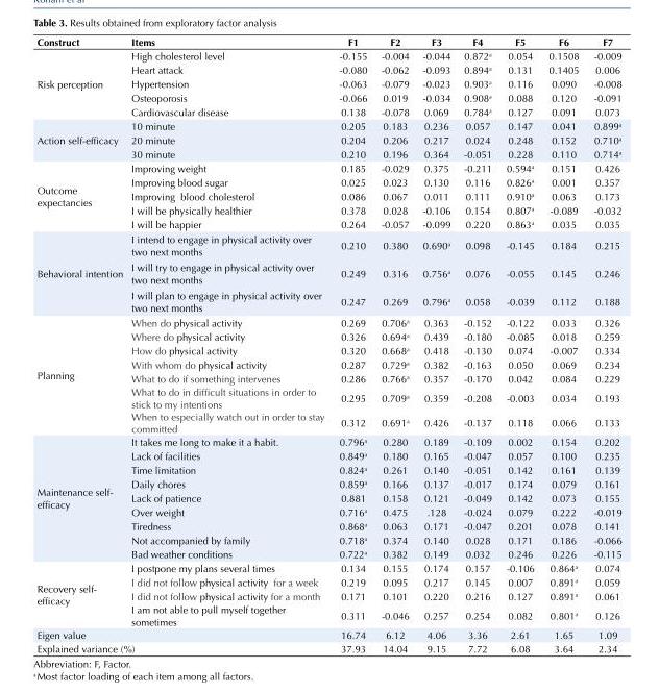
<table><tbody><tr><td>Construct</td><td>Items</td><td>F1</td><td>F2</td><td>F3</td><td>F4</td><td>F5</td><td>F6</td><td>F7</td></tr><tr><td rowspan="5">Risk perception</td><td>High cholesterol level</td><td>-0.155</td><td>-0.004</td><td>-0.044</td><td>0.872<sup>a</sup></td><td>0.054</td><td>0.1508</td><td>-0.009</td></tr><tr><td>Heart attack</td><td>-0.080</td><td>-0.062</td><td>-0.093</td><td>0.894<sup>a</sup></td><td>0.131</td><td>0.1405</td><td>0.006</td></tr><tr><td>Hypertension</td><td>-0.063</td><td>-0.079</td><td>-0.023</td><td>0.903<sup>a</sup></td><td>0.116</td><td>0.090</td><td>-0.008</td></tr><tr><td>Osteoporosis</td><td>-0.066</td><td>0.019</td><td>-0.034</td><td>0.908<sup>a</sup></td><td>0.088</td><td>0.120</td><td>-0.091</td></tr><tr><td>Cardiovascular disease</td><td>0.138</td><td>-0.078</td><td>0.069</td><td>0.784<sup>a</sup></td><td>0.127</td><td>0.091</td><td>0.073</td></tr><tr><td rowspan="3">Action self-efficacy</td><td>10 minute</td><td>0.205</td><td>0.183</td><td>0.236</td><td>0.057</td><td>0.147</td><td>0.041</td><td>0.899<sup>a</sup></td></tr><tr><td>20 minute</td><td>0.204</td><td>0.206</td><td>0.217</td><td>0.024</td><td>0.248</td><td>0.152</td><td>0.710<sup>a</sup></td></tr><tr><td>30 minute</td><td>0.210</td><td>0.196</td><td>0.364</td><td>-0.051</td><td>0.228</td><td>0.110</td><td>0.714<sup>a</sup></td></tr><tr><td rowspan="5">Outcome expectancies</td><td>Improving weight</td><td>0.185</td><td>-0.029</td><td>0.375</td><td>-0.211</td><td>0.594<sup>a</sup></td><td>0.151</td><td>0.426</td></tr><tr><td>Improving blood sugar</td><td>0.025</td><td>0.023</td><td>0.130</td><td>0.116</td><td>0.826<sup>a</sup></td><td>0.001</td><td>0.357</td></tr><tr><td>Improving blood cholesterol</td><td>0.086</td><td>0.067</td><td>0.011</td><td>0.111</td><td>0.910<sup>a</sup></td><td>0.063</td><td>0.173</td></tr><tr><td>I will be physically healthier</td><td>0.378</td><td>0.028</td><td>-0.106</td><td>0.154</td><td>0.807<sup>a</sup></td><td>-0.089</td><td>-0.032</td></tr><tr><td>I will be happier</td><td>0.264</td><td>-0.057</td><td>-0.099</td><td>0.220</td><td>0.863<sup>a</sup></td><td>0.035</td><td>0.035</td></tr><tr><td rowspan="3">Behavioral intention</td><td>I intend to engage in physical activity over two next months</td><td>0.210</td><td>0.380</td><td>0.690<sup>a</sup></td><td>0.098</td><td>-0.145</td><td>0.184</td><td>0.215</td></tr><tr><td>I will try to engage in physical activity over two next months</td><td>0.249</td><td>0.316</td><td>0.756<sup>a</sup></td><td>0.076</td><td>-0.055</td><td>0.145</td><td>0.246</td></tr><tr><td>I will plan to engage in physical activity over two next months</td><td>0.247</td><td>0.269</td><td>0.796<sup>a</sup></td><td>0.058</td><td>-0.039</td><td>0.112</td><td>0.188</td></tr><tr><td rowspan="7">Planning</td><td>When do physical activity</td><td>0.269</td><td>0.706<sup>a</sup></td><td>0.363</td><td>-0.152</td><td>-0.122</td><td>0.033</td><td>0.326</td></tr><tr><td>Where do physical activity</td><td>0.326</td><td>0.694<sup>a</sup></td><td>0.439</td><td>-0.180</td><td>-0.085</td><td>0.018</td><td>0.259</td></tr><tr><td>How do physical activity</td><td>0.320</td><td>0.668<sup>a</sup></td><td>0.418</td><td>-0.130</td><td>0.074</td><td>-0.007</td><td>0.334</td></tr><tr><td>With whom do physical activity</td><td>0.287</td><td>0.729<sup>a</sup></td><td>0.382</td><td>-0.163</td><td>0.050</td><td>0.069</td><td>0.234</td></tr><tr><td>What to do if something intervenes</td><td>0.286</td><td>0.766<sup>a</sup></td><td>0.357</td><td>-0.170</td><td>0.042</td><td>0.084</td><td>0.229</td></tr><tr><td>What to do in difficult situations in order to stick to my intentions</td><td>0.295</td><td>0.709<sup>a</sup></td><td>0.359</td><td>-0.208</td><td>-0.003</td><td>0.034</td><td>0.193</td></tr><tr><td>When to especially watch out in order to stay committed</td><td>0.312</td><td>0.691<sup>a</sup></td><td>0.426</td><td>-0.137</td><td>0.118</td><td>0.066</td><td>0.133</td></tr><tr><td rowspan="9">Maintenance self- efficacy</td><td>It takes me long to make it a habit.</td><td>0.796<sup>a</sup></td><td>0.280</td><td>0.189</td><td>-0.109</td><td>0.002</td><td>0.154</td><td>0.202</td></tr><tr><td>Lack of facilities</td><td>0.849<sup>a</sup></td><td>0.180</td><td>0.165</td><td>-0.047</td><td>0.057</td><td>0.100</td><td>0.235</td></tr><tr><td>Time limitation</td><td>0.824<sup>a</sup></td><td>0.261</td><td>0.140</td><td>-0.051</td><td>0.142</td><td>0.161</td><td>0.139</td></tr><tr><td>Daily chores</td><td>0.859<sup>a</sup></td><td>0.166</td><td>0.137</td><td>-0.017</td><td>0.174</td><td>0.079</td><td>0.161</td></tr><tr><td>Lack of patience</td><td>0.881</td><td>0.158</td><td>0.121</td><td>-0.049</td><td>0.142</td><td>0.073</td><td>0.155</td></tr><tr><td>Over weight</td><td>0.716<sup>a</sup></td><td>0.475</td><td>.128</td><td>-0.024</td><td>0.079</td><td>0.222</td><td>-0.019</td></tr><tr><td>Tiredness</td><td>0.868<sup>a</sup></td><td>0.063</td><td>0.171</td><td>-0.047</td><td>0.201</td><td>0.078</td><td>0.141</td></tr><tr><td>Not accompanied by family</td><td>0.718<sup>a</sup></td><td>0.374</td><td>0.140</td><td>0.028</td><td>0.171</td><td>0.186</td><td>-0.066</td></tr><tr><td>Bad weather conditions</td><td>0.722<sup>a</sup></td><td>0.382</td><td>0.149</td><td>0.032</td><td>0.246</td><td>0.226</td><td>-0.115</td></tr><tr><td rowspan="4">Recovery self- efficacy</td><td>I postpone my plans several times</td><td>0.134</td><td>0.155</td><td>0.174</td><td>0.157</td><td>-0.106</td><td>0.864<sup>a</sup></td><td>0.074</td></tr><tr><td>I did not follow physical activity for a week</td><td>0.219</td><td>0.095</td><td>0.217</td><td>0.145</td><td>0.007</td><td>0.891<sup>a</sup></td><td>0.059</td></tr><tr><td>I did not follow physical activity for a month</td><td>0.171</td><td>0.101</td><td>0.220</td><td>0.216</td><td>0.127</td><td>0.891<sup>a</sup></td><td>0.061</td></tr><tr><td>I am not able to pull myself together sometimes</td><td>0.311</td><td>-0.046</td><td>0.257</td><td>0.254</td><td>0.082</td><td>0.801<sup>a</sup></td><td>0.126</td></tr><tr><td colspan="2">Eigen value</td><td>16.74</td><td>6.12</td><td>4.06</td><td>3.36</td><td>2.61</td><td>1.65</td><td>1.09</td></tr><tr><td colspan="2">Explained variance (%)</td><td>37.93</td><td>14.04</td><td>9.15</td><td>7.72</td><td>6.08</td><td>3.64</td><td>2.34</td></tr></tbody></table>